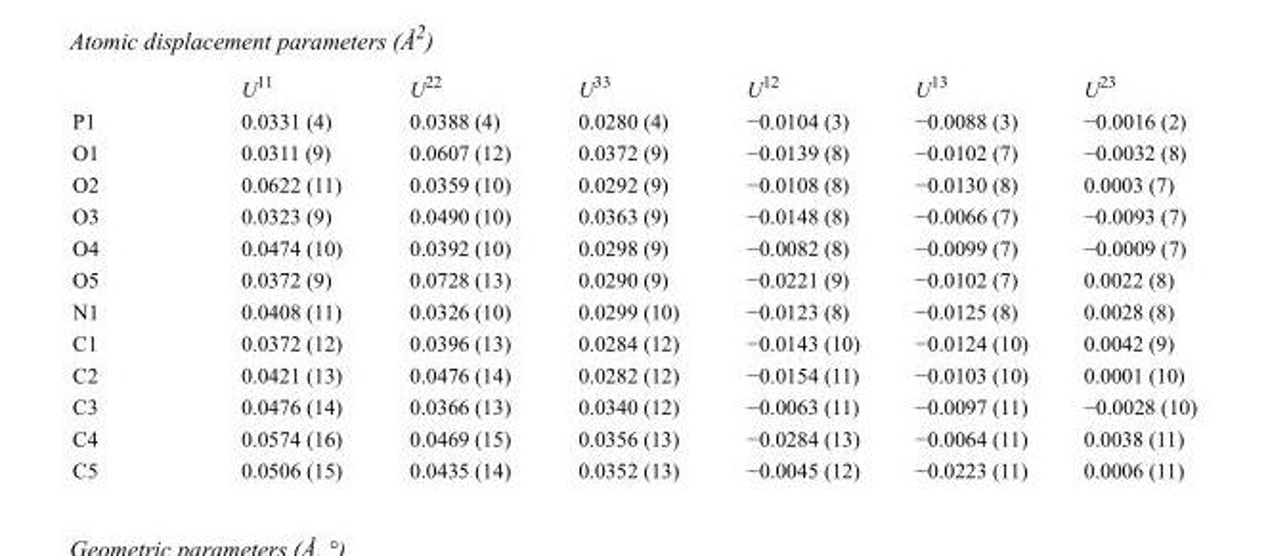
<table><thead><tr><td></td><td>U<sup>11</sup></td><td>U<sup>22</sup></td><td>U<sup>33</sup></td><td>U<sup>12</sup></td><td>U<sup>13</sup></td><td>U<sup>23</sup></td></tr></thead><tbody><tr><td>P1</td><td>0.0331 (4)</td><td>0.0388 (4)</td><td>0.0280 (4)</td><td>−0.0104 (3)</td><td>−0.0088 (3)</td><td>−0.0016 (2)</td></tr><tr><td>O1</td><td>0.0311 (9)</td><td>0.0607 (12)</td><td>0.0372 (9)</td><td>−0.0139 (8)</td><td>−0.0102 (7)</td><td>−0.0032 (8)</td></tr><tr><td>O2</td><td>0.0622 (11)</td><td>0.0359 (10)</td><td>0.0292 (9)</td><td>−0.0108 (8)</td><td>−0.0130 (8)</td><td>0.0003 (7)</td></tr><tr><td>O3</td><td>0.0323 (9)</td><td>0.0490 (10)</td><td>0.0363 (9)</td><td>−0.0148 (8)</td><td>−0.0066 (7)</td><td>−0.0093 (7)</td></tr><tr><td>O4</td><td>0.0474 (10)</td><td>0.0392 (10)</td><td>0.0298 (9)</td><td>−0.0082 (8)</td><td>−0.0099 (7)</td><td>−0.0009 (7)</td></tr><tr><td>O5</td><td>0.0372 (9)</td><td>0.0728 (13)</td><td>0.0290 (9)</td><td>−0.0221 (9)</td><td>−0.0102 (7)</td><td>0.0022 (8)</td></tr><tr><td>N1</td><td>0.0408 (11)</td><td>0.0326 (10)</td><td>0.0299 (10)</td><td>−0.0123 (8)</td><td>−0.0125 (8)</td><td>0.0028 (8)</td></tr><tr><td>C1</td><td>0.0372 (12)</td><td>0.0396 (13)</td><td>0.0284 (12)</td><td>−0.0143 (10)</td><td>−0.0124 (10)</td><td>0.0042 (9)</td></tr><tr><td>C2</td><td>0.0421 (13)</td><td>0.0476 (14)</td><td>0.0282 (12)</td><td>−0.0154 (11)</td><td>−0.0103 (10)</td><td>0.0001 (10)</td></tr><tr><td>C3</td><td>0.0476 (14)</td><td>0.0366 (13)</td><td>0.0340 (12)</td><td>−0.0063 (11)</td><td>−0.0097 (11)</td><td>−0.0028 (10)</td></tr><tr><td>C4</td><td>0.0574 (16)</td><td>0.0469 (15)</td><td>0.0356 (13)</td><td>−0.0284 (13)</td><td>−0.0064 (11)</td><td>0.0038 (11)</td></tr><tr><td>C5</td><td>0.0506 (15)</td><td>0.0435 (14)</td><td>0.0352 (13)</td><td>−0.0045 (12)</td><td>−0.0223 (11)</td><td>0.0006 (11)</td></tr></tbody></table>